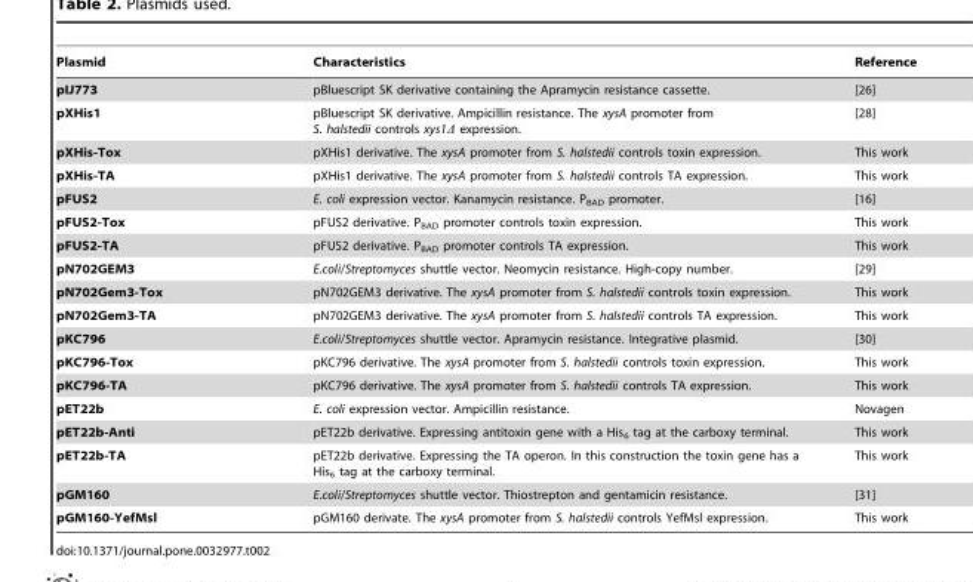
<table><thead><tr><td>Plasmid</td><td>Characteristics</td><td>Reference</td></tr></thead><tbody><tr><td>pIJ773</td><td>pBluescript SK derivative containing the Apramycin resistance cassette.</td><td>[26]</td></tr><tr><td>pXHis1</td><td>pBluescript SK derivative. Ampicillin resistance. The xysA promoter from S. halstedii controls xys1Δ expression.</td><td>[28]</td></tr><tr><td>pXHis-Tox</td><td>pXHis1 derivative. The xysA promoter from S. halstedii controls toxin expression.</td><td>This work</td></tr><tr><td>pXHis-TA</td><td>pXHis1 derivative. The xysA promoter from S. halstedii controls TA expression.</td><td>This work</td></tr><tr><td>pFUS2</td><td>E. coli expression vector. Kanamycin resistance. P<sub>BAD</sub> promoter.</td><td>[16]</td></tr><tr><td>pFUS2-Tox</td><td>pFUS2 derivative. P<sub>BAD</sub> promoter controls toxin expression.</td><td>This work</td></tr><tr><td>pFUS2-TA</td><td>pFUS2 derivative. P<sub>BAD</sub> promoter controls TA expression.</td><td>This work</td></tr><tr><td>pN702GEM3</td><td>E.coli/Streptomyces shuttle vector. Neomycin resistance. High-copy number.</td><td>[29]</td></tr><tr><td>pN702Gem3-Tox</td><td>pN702GEM3 derivative. The xysA promoter from S. halstedii controls toxin expression.</td><td>This work</td></tr><tr><td>pN702Gem3-TA</td><td>pN702GEM3 derivative. The xysA promoter from S. halstedii controls TA expression.</td><td>This work</td></tr><tr><td>pKC796</td><td>E.coli/Streptomyces shuttle vector. Apramycin resistance. Integrative plasmid.</td><td>[30]</td></tr><tr><td>pKC796-Tox</td><td>pKC796 derivative. The xysA promoter from S. halstedii controls toxin expression.</td><td>This work</td></tr><tr><td>pKC796-TA</td><td>pKC796 derivative. The xysA promoter from S. halstedii controls TA expression.</td><td>This work</td></tr><tr><td>pET22b</td><td>E. coli expression vector. Ampicillin resistance.</td><td>Novagen</td></tr><tr><td>pET22b-Anti</td><td>pET22b derivative. Expressing antitoxin gene with a His<sub>6</sub> tag at the carboxy terminal.</td><td>This work</td></tr><tr><td>pET22b-TA</td><td>pET22b derivative. Expressing the TA operon. In this construction the toxin gene has a His<sub>6</sub> tag at the carboxy terminal.</td><td>This work</td></tr><tr><td>pGM160</td><td>E.coli/Streptomyces shuttle vector. Thiostrepton and gentamicin resistance.</td><td>[31]</td></tr><tr><td>pGM160-YefMsl</td><td>pGM160 derivate. The xysA promoter from S. halstedii controls YefMsl expression.</td><td>This work</td></tr></tbody></table>